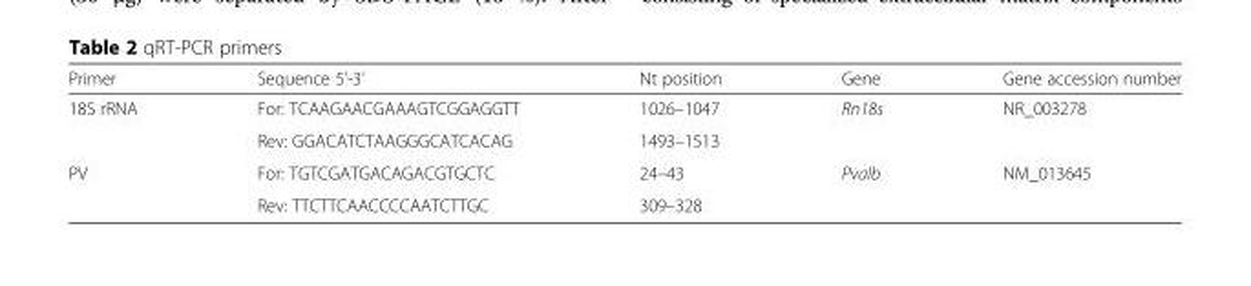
<table><thead><tr><td>Primer</td><td>Sequence 5’-3’</td><td>Nt position</td><td>Gene</td><td>Gene accession number</td></tr></thead><tbody><tr><td rowspan="2">18S rRNA</td><td>For: TCAAGAACGAAAGTCGGAGGTT</td><td>1026–1047</td><td rowspan="2">Rn18s</td><td rowspan="2">NR_003278</td></tr><tr><td>Rev: GGACATCTAAGGGCATCACAG</td><td>1493–1513</td></tr><tr><td rowspan="2">PV</td><td>For: TGTCGATGACAGACGTGCTC</td><td>24–43</td><td rowspan="2">Pvalb</td><td rowspan="2">NM_013645</td></tr><tr><td>Rev: TTCTTCAACCCCAATCTTGC</td><td>309–328</td></tr></tbody></table>